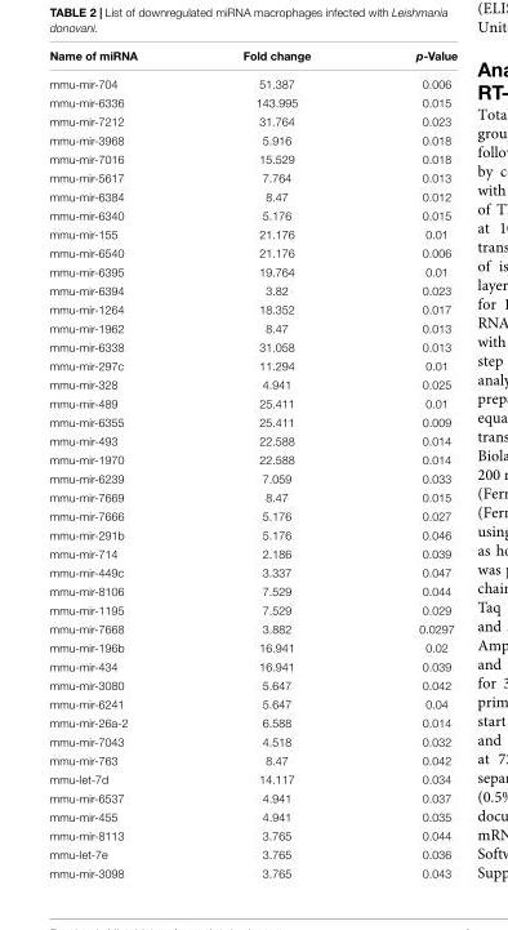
<table><thead><tr><td>Name of miRNA</td><td>Fold change</td><td>p-Value</td></tr></thead><tbody><tr><td>mmu-mir-704</td><td>51.387</td><td>0.006</td></tr><tr><td>mmu-mir-6336</td><td>143.995</td><td>0.015</td></tr><tr><td>mmu-mir-7212</td><td>31.764</td><td>0.023</td></tr><tr><td>mmu-mir-3968</td><td>5.916</td><td>0.018</td></tr><tr><td>mmu-mir-7016</td><td>15.529</td><td>0.018</td></tr><tr><td>mmu-mir-5617</td><td>7.764</td><td>0.013</td></tr><tr><td>mmu-mir-6384</td><td>8.47</td><td>0.012</td></tr><tr><td>mmu-mir-6340</td><td>5.176</td><td>0.015</td></tr><tr><td>mmu-mir-155</td><td>21.176</td><td>0.01</td></tr><tr><td>mmu-mir-6540</td><td>21.176</td><td>0.006</td></tr><tr><td>mmu-mir-6395</td><td>19.764</td><td>0.01</td></tr><tr><td>mmu-mir-6394</td><td>3.82</td><td>0.023</td></tr><tr><td>mmu-mir-1264</td><td>18.352</td><td>0.017</td></tr><tr><td>mmu-mir-1962</td><td>8.47</td><td>0.013</td></tr><tr><td>mmu-mir-6338</td><td>31.058</td><td>0.013</td></tr><tr><td>mmu-mir-297c</td><td>11.294</td><td>0.01</td></tr><tr><td>mmu-mir-328</td><td>4.941</td><td>0.025</td></tr><tr><td>mmu-mir-489</td><td>25.411</td><td>0.01</td></tr><tr><td>mmu-mir-6355</td><td>25.411</td><td>0.009</td></tr><tr><td>mmu-mir-493</td><td>22.588</td><td>0.014</td></tr><tr><td>mmu-mir-1970</td><td>22.588</td><td>0.014</td></tr><tr><td>mmu-mir-6239</td><td>7.059</td><td>0.033</td></tr><tr><td>mmu-mir-7669</td><td>8.47</td><td>0.015</td></tr><tr><td>mmu-mir-7666</td><td>5.176</td><td>0.027</td></tr><tr><td>mmu-mir-291b</td><td>5.176</td><td>0.046</td></tr><tr><td>mmu-mir-714</td><td>2.186</td><td>0.039</td></tr><tr><td>mmu-mir-449c</td><td>3.337</td><td>0.047</td></tr><tr><td>mmu-mir-8106</td><td>7.529</td><td>0.044</td></tr><tr><td>mmu-mir-1195</td><td>7.529</td><td>0.029</td></tr><tr><td>mmu-mir-7668</td><td>3.882</td><td>0.0297</td></tr><tr><td>mmu-mir-196b</td><td>16.941</td><td>0.02</td></tr><tr><td>mmu-mir-434</td><td>16.941</td><td>0.039</td></tr><tr><td>mmu-mir-3080</td><td>5.647</td><td>0.042</td></tr><tr><td>mmu-mir-6241</td><td>5.647</td><td>0.04</td></tr><tr><td>mmu-mir-26a-2</td><td>6.588</td><td>0.014</td></tr><tr><td>mmu-mir-7043</td><td>4.518</td><td>0.032</td></tr><tr><td>mmu-mir-763</td><td>8.47</td><td>0.042</td></tr><tr><td>mmu-let-7d</td><td>14.117</td><td>0.034</td></tr><tr><td>mmu-mir-6537</td><td>4.941</td><td>0.037</td></tr><tr><td>mmu-mir-455</td><td>4.941</td><td>0.035</td></tr><tr><td>mmu-mir-8113</td><td>3.765</td><td>0.044</td></tr><tr><td>mmu-let-7e</td><td>3.765</td><td>0.036</td></tr><tr><td>mmu-mir-3098</td><td>3.765</td><td>0.043</td></tr></tbody></table>